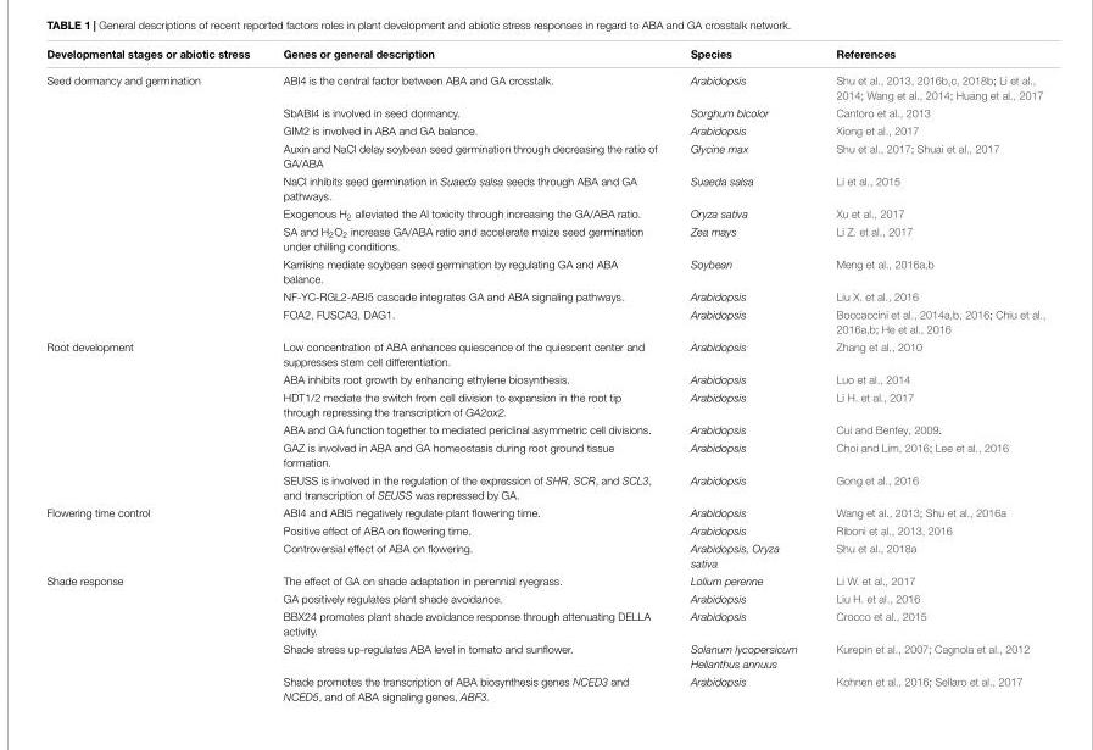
<table><thead><tr><td>Developmental stages or abiotic stress</td><td>Genes or general description</td><td>Species</td><td>References</td></tr></thead><tbody><tr><td rowspan="10">Seed dormancy and germination</td><td>ABI4 is the central factor between ABA and GA crosstalk.</td><td>Arabidopsis</td><td>Shu et al., 2013, 2016b,c, 2018b; Li et al., 2014; Wang et al., 2014; Huang et al., 2017</td></tr><tr><td>SbABI4 is involved in seed dormancy.</td><td>Sorghum bicolor</td><td>Cantoro et al., 2013</td></tr><tr><td>GIM2 is involved in ABA and GA balance.</td><td>Arabidopsis</td><td>Xiong et al., 2017</td></tr><tr><td>Auxin and NaCl delay soybean seed germination through decreasing the ratio of GA/ABA</td><td>Glycine max</td><td>Shu et al., 2017; Shuai et al., 2017</td></tr><tr><td>NaCl inhibits seed germination in Suaeda salsa seeds through ABA and GA pathways.</td><td>Suaeda salsa</td><td>Li et al., 2015</td></tr><tr><td>Exogenous H<sub>2</sub> alleviated the Al toxicity through increasing the GA/ABA ratio.</td><td>Oryza sativa</td><td>Xu et al., 2017</td></tr><tr><td>SA and H<sub>2</sub>O<sub>2</sub> increase GA/ABA ratio and accelerate maize seed germination under chilling conditions.</td><td>Zea mays</td><td>Li Z. et al., 2017</td></tr><tr><td>Karrikins mediate soybean seed germination by regulating GA and ABA balance.</td><td>Soybean</td><td>Meng et al., 2016a,b</td></tr><tr><td>NF-YC-RGL2-ABI5 cascade integrates GA and ABA signaling pathways.</td><td>Arabidopsis</td><td>Liu X. et al., 2016</td></tr><tr><td>FOA2, FUSCA3, DAG1.</td><td>Arabidopsis</td><td>Boccaccini et al., 2014a,b, 2016; Chiu et al., 2016a,b; He et al., 2016</td></tr><tr><td rowspan="6">Root development</td><td>Low concentration of ABA enhances quiescence of the quiescent center and suppresses stem cell differentiation.</td><td>Arabidopsis</td><td>Zhang et al., 2010</td></tr><tr><td>ABA inhibits root growth by enhancing ethylene biosynthesis.</td><td>Arabidopsis</td><td>Luo et al., 2014</td></tr><tr><td>HDT1/2 mediate the switch from cell division to expansion in the root tip through repressing the transcription of GA2ox2.</td><td>Arabidopsis</td><td>Li H. et al., 2017</td></tr><tr><td>ABA and GA function together to mediated periclinal asymmetric cell divisions.</td><td>Arabidopsis</td><td>Cui and Benfey, 2009.</td></tr><tr><td>GAZ is involved in ABA and GA homeostasis during root ground tissue formation.</td><td>Arabidopsis</td><td>Choi and Lim, 2016; Lee et al., 2016</td></tr><tr><td>SEUSS is involved in the regulation of the expression of SHR, SCR, and SCL3, and transcription of SEUSS was repressed by GA.</td><td>Arabidopsis</td><td>Gong et al., 2016</td></tr><tr><td rowspan="3">Flowering time control</td><td>ABI4 and ABI5 negatively regulate plant flowering time.</td><td>Arabidopsis</td><td>Wang et al., 2013; Shu et al., 2016a</td></tr><tr><td>Positive effect of ABA on flowering time.</td><td>Arabidopsis</td><td>Riboni et al., 2013, 2016</td></tr><tr><td>Controversial effect of ABA on flowering.</td><td>Arabidopsis, Oryza sativa</td><td>Shu et al., 2018a</td></tr><tr><td rowspan="5">Shade response</td><td>The effect of GA on shade adaptation in perennial ryegrass.</td><td>Lolium perenne</td><td>Li W. et al., 2017</td></tr><tr><td>GA positively regulates plant shade avoidance.</td><td>Arabidopsis</td><td>Liu H. et al., 2016</td></tr><tr><td>BBX24 promotes plant shade avoidance response through attenuating DELLA activity.</td><td>Arabidopsis</td><td>Crocco et al., 2015</td></tr><tr><td>Shade stress up-regulates ABA level in tomato and sunflower.</td><td>Solanum lycopersicum Helianthus annuus</td><td>Kurepin et al., 2007; Cagnola et al., 2012</td></tr><tr><td>Shade promotes the transcription of ABA biosynthesis genes NCED3 and NCED5, and of ABA signaling genes, ABF3.</td><td>Arabidopsis</td><td>Kohnen et al., 2016; Sellaro et al., 2017</td></tr></tbody></table>